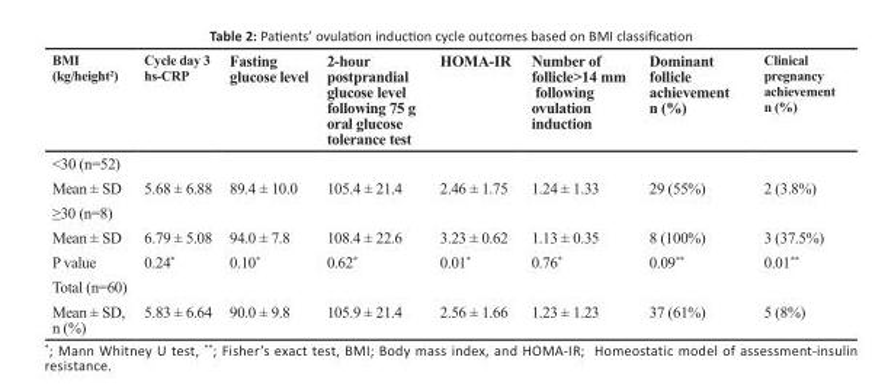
<table><thead><tr><td>BMI (kg/height<sup>2</sup>)</td><td>Cycle day 3 hs-CRP</td><td>Fasting glucose level</td><td>2-hour postprandial glucose level following 75 g oral glucose tolerance test</td><td>HOMA-IR</td><td>Number of follicle&gt;14 mm following ovulation induction</td><td>Dominant follicle achievement n (%)</td><td>Clinical pregnancy achievement n (%)</td></tr></thead><tbody><tr><td>&lt;30 (n=52) Mean ± SD</td><td>5.68 ± 6.88</td><td>89.4 ± 10.0</td><td>105.4 ± 21.4</td><td>2.46 ± 1.75</td><td>1.24 ± 1.33</td><td>29 (55%)</td><td>2 (3.8%)</td></tr><tr><td>≥30 (n=8) Mean ± SD</td><td>6.79 ± 5.08</td><td>94.0 ± 7.8</td><td>108.4 ± 22.6</td><td>3.23 ± 0.62</td><td>1.13 ± 0.35</td><td>8 (100%)</td><td>3 (37.5%)</td></tr><tr><td>P value</td><td>0.24*</td><td>0.10*</td><td>0.62*</td><td>0.01*</td><td>0.76*</td><td>0.09**</td><td>0.01**</td></tr><tr><td>Total (n=60) Mean ± SD, n (%)</td><td>5.83 ± 6.64</td><td>90.0 ± 9.8</td><td>105.9 ± 21.4</td><td>2.56 ± 1.66</td><td>1.23 ± 1.23</td><td>37 (61%)</td><td>5 (8%)</td></tr></tbody></table>